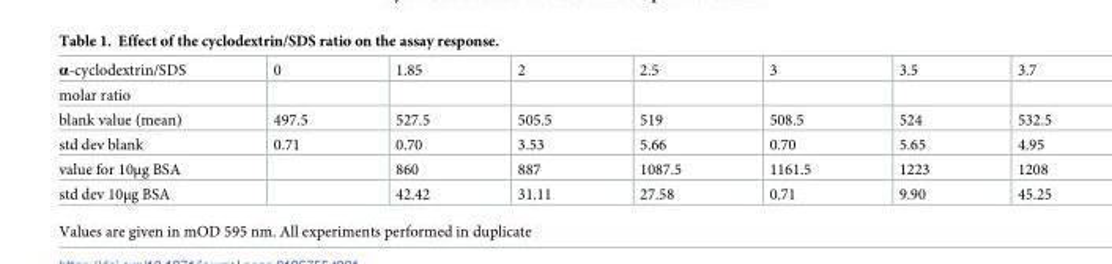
<table><tbody><tr><td>α-cyclodextrin/SDS</td><td>0</td><td>1.85</td><td>2</td><td>2.5</td><td>3</td><td>3.5</td><td>3.7</td></tr><tr><td colspan="8">molar ratio</td></tr><tr><td>blank value (mean)</td><td>497.5</td><td>527.5</td><td>505.5</td><td>519</td><td>508.5</td><td>524</td><td>532.5</td></tr><tr><td>std dev blank</td><td>0.71</td><td>0.70</td><td>3.53</td><td>5.66</td><td>0.70</td><td>5.65</td><td>4.95</td></tr><tr><td>value for 10μg BSA</td><td></td><td>860</td><td>887</td><td>1087.5</td><td>1161.5</td><td>1223</td><td>1208</td></tr><tr><td>std dev 10μg BSA</td><td></td><td>42.42</td><td>31.11</td><td>27.58</td><td>0.71</td><td>9.90</td><td>45.25</td></tr></tbody></table>